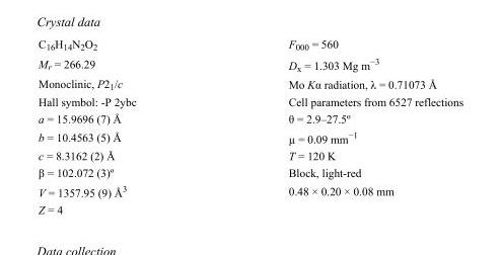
<table><tbody><tr><td>C<sub>16</sub>H<sub>14</sub>N<sub>2</sub>O<sub>2</sub></td><td>F000 = 560</td></tr><tr><td>M<sub>r</sub> = 266.29</td><td>D<sub>x</sub> = 1.303 Mg m<sup>−3</sup></td></tr><tr><td>Monoclinic, P2<sub>1</sub>/c</td><td>Mo Kα radiation, λ = 0.71073 Å</td></tr><tr><td>Hall symbol: -P 2ybc</td><td>Cell parameters from 6527 reflections</td></tr><tr><td>a = 15.9696 (7) Å</td><td>θ = 2.9–27.5º</td></tr><tr><td>b = 10.4563 (5) Å</td><td>µ = 0.09 mm<sup>−1</sup></td></tr><tr><td>c = 8.3162 (2) Å</td><td>T = 120 K</td></tr><tr><td>β = 102.072 (3)º</td><td>Block, light-red</td></tr><tr><td>V = 1357.95 (9) Å<sup>3</sup></td><td>0.48 × 0.20 × 0.08 mm</td></tr><tr><td>Z = 4</td><td></td></tr></tbody></table>